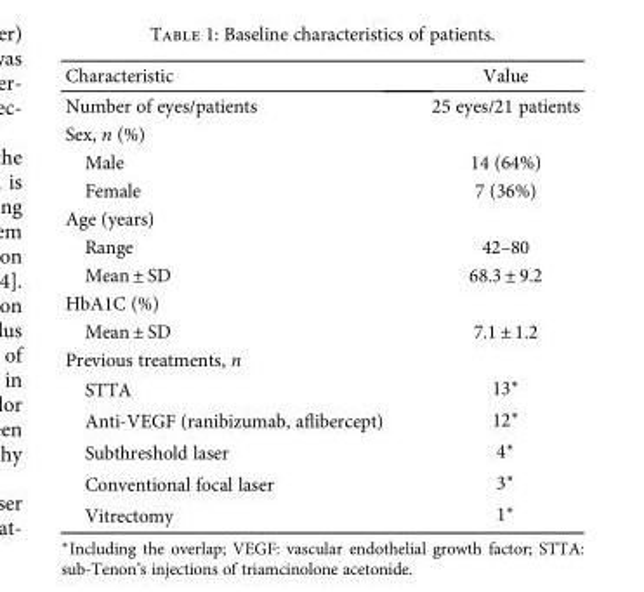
<table><thead><tr><td>Characteristic</td><td>Value</td></tr></thead><tbody><tr><td>Number of eyes/patients</td><td>25 eyes/21 patients</td></tr><tr><td colspan="2">Sex, n (%)</td></tr><tr><td>Male</td><td>14 (64%)</td></tr><tr><td>Female</td><td>7 (36%)</td></tr><tr><td colspan="2">Age (years)</td></tr><tr><td>Range</td><td>42–80</td></tr><tr><td>Mean ± SD</td><td>68.3 ± 9.2</td></tr><tr><td colspan="2">HbA1C (%)</td></tr><tr><td>Mean ± SD</td><td>7.1 ± 1.2</td></tr><tr><td colspan="2">Previous treatments, n</td></tr><tr><td>STTA</td><td>13∗</td></tr><tr><td>Anti-VEGF (ranibizumab, aflibercept)</td><td>12∗</td></tr><tr><td>Subthreshold laser</td><td>4∗</td></tr><tr><td>Conventional focal laser</td><td>3∗</td></tr><tr><td>Vitrectomy</td><td>1∗</td></tr></tbody></table>